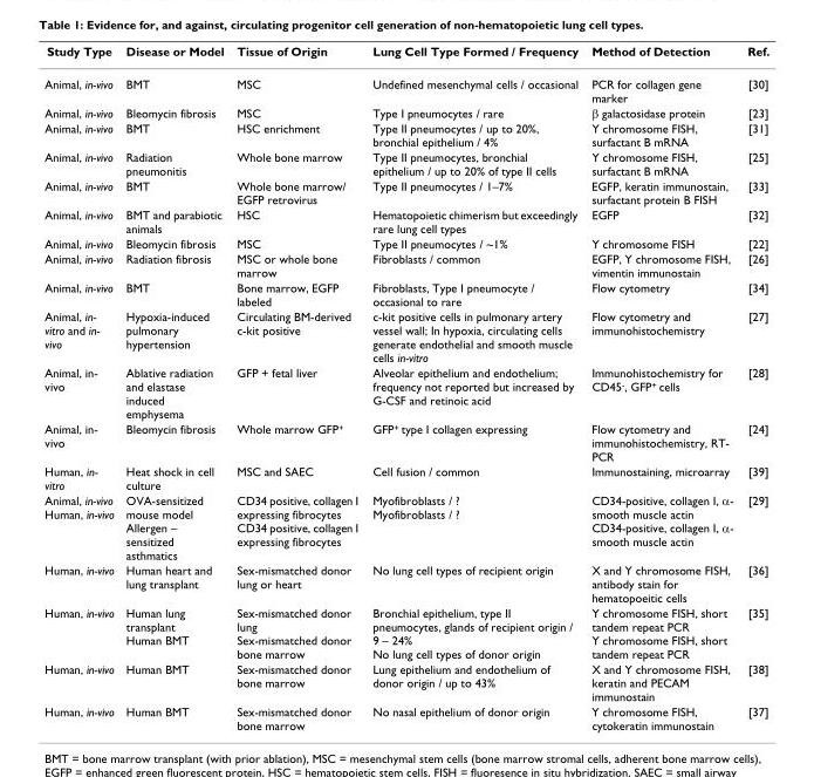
<table><thead><tr><td>Study Type</td><td>Disease or Model</td><td>Tissue of Origin</td><td>Lung Cell Type Formed / Frequency</td><td>Method of Detection</td><td>Ref.</td></tr></thead><tbody><tr><td>Animal, in-vivo</td><td>BMT</td><td>MSC</td><td>Undefined mesenchymal cells / occasional</td><td>PCR for collagen gene marker</td><td>[30]</td></tr><tr><td>Animal, in-vivo</td><td>Bleomycin fibrosis</td><td>MSC</td><td>Type I pneumocytes / rare</td><td>β galactosidase protein</td><td>[23]</td></tr><tr><td>Animal, in-vivo</td><td>BMT</td><td>HSC enrichment</td><td>Type II pneumocytes / up to 20%, bronchial epithelium / 4%</td><td>Y chromosome FISH, surfactant B mRNA</td><td>[31]</td></tr><tr><td>Animal, in-vivo</td><td>Radiation pneumonitis</td><td>Whole bone marrow</td><td>Type II pneumocytes, bronchial epithelium / up to 20% of type II cells</td><td>Y chromosome FISH, surfactant B mRNA</td><td>[25]</td></tr><tr><td>Animal, in-vivo</td><td>BMT</td><td>Whole bone marrow/ EGFP retrovirus</td><td>Type II pneumocytes / 1–7%</td><td>EGFP, keratin immunostain, surfactant protein B FISH</td><td>[33]</td></tr><tr><td>Animal, in-vivo</td><td>BMT and parabiotic animals</td><td>HSC</td><td>Hematopoietic chimerism but exceedingly rare lung cell types</td><td>EGFP</td><td>[32]</td></tr><tr><td>Animal, in-vivo</td><td>Bleomycin fibrosis</td><td>MSC</td><td>Type II pneumocytes / ~1%</td><td>Y chromosome FISH</td><td>[22]</td></tr><tr><td>Animal, in-vivo</td><td>Radiation fibrosis</td><td>MSC or whole bone marrow</td><td>Fibroblasts / common</td><td>EGFP, Y chromosome FISH, vimentin immunostain</td><td>[26]</td></tr><tr><td>Animal, in-vivo</td><td>BMT</td><td>Bone marrow, EGFP labeled</td><td>Fibroblasts, Type I pneumocyte / occasional to rare</td><td>Flow cytometry</td><td>[34]</td></tr><tr><td>Animal, in- vitro and in- vivo</td><td>Hypoxia-induced pulmonary hypertension</td><td>Circulating BM-derived c-kit positive</td><td>c-kit positive cells in pulmonary artery vessel wall; In hypoxia, circulating cells generate endothelial and smooth muscle cells in-vitro</td><td>Flow cytometry and immunohistochemistry</td><td>[27]</td></tr><tr><td>Animal, in- vivo</td><td>Ablative radiation and elastase induced emphysema</td><td>GFP + fetal liver</td><td>Alveolar epithelium and endothelium; frequency not reported but increased by G-CSF and retinoic acid</td><td>Immunohistochemistry for CD45<sup>-</sup>, GFP<sup>+</sup> cells</td><td>[28]</td></tr><tr><td>Animal, in- vivo</td><td>Bleomycin fibrosis</td><td>Whole marrow GFP<sup>+</sup></td><td>GFP<sup>+</sup> type I collagen expressing</td><td>Flow cytometry and immunohistochemistry, RT- PCR</td><td>[24]</td></tr><tr><td>Human, in- vitro</td><td>Heat shock in cell culture</td><td>MSC and SAEC</td><td>Cell fusion / common</td><td>Immunostaining, microarray</td><td>[39]</td></tr><tr><td>Animal, in-vivo Human, in-vivo</td><td>OVA-sensitized mouse model Allergen – sensitized asthmatics</td><td>CD34 positive, collagen I expressing fibrocytes CD34 positive, collagen I expressing fibrocytes</td><td>Myofibroblasts / ? Myofibroblasts / ?</td><td>CD34-positive, collagen I, α- smooth muscle actin CD34-positive, collagen I, α- smooth muscle actin</td><td>[29]</td></tr><tr><td>Human, in-vivo</td><td>Human heart and lung transplant</td><td>Sex-mismatched donor lung or heart</td><td>No lung cell types of recipient origin</td><td>X and Y chromosome FISH, antibody stain for hematopoeitic cells</td><td>[36]</td></tr><tr><td>Human, in-vivo</td><td>Human lung transplant Human BMT</td><td>Sex-mismatched donor lung Sex-mismatched donor bone marrow</td><td>Bronchial epithelium, type II pneumocytes, glands of recipient origin / 9 – 24% No lung cell types of donor origin</td><td>Y chromosome FISH, short tandem repeat PCR Y chromosome FISH, short tandem repeat PCR</td><td>[35]</td></tr><tr><td>Human, in-vivo</td><td>Human BMT</td><td>Sex-mismatched donor bone marrow</td><td>Lung epithelium and endothelium of donor origin / up to 43%</td><td>X and Y chromosome FISH, keratin and PECAM immunostain</td><td>[38]</td></tr><tr><td>Human, in-vivo</td><td>Human BMT</td><td>Sex-mismatched donor bone marrow</td><td>No nasal epithelium of donor origin</td><td>Y chromosome FISH, cytokeratin immunostain</td><td>[37]</td></tr></tbody></table>